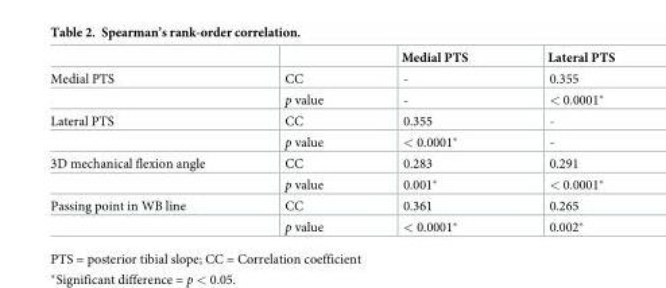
<table><thead><tr><td></td><td></td><td>Medial PTS</td><td>Lateral PTS</td></tr></thead><tbody><tr><td rowspan="2">Medial PTS</td><td>CC</td><td>-</td><td>0.355</td></tr><tr><td>p value</td><td>-</td><td>&lt; 0.0001*</td></tr><tr><td rowspan="2">Lateral PTS</td><td>CC</td><td>0.355</td><td>-</td></tr><tr><td>p value</td><td>&lt; 0.0001*</td><td>-</td></tr><tr><td rowspan="2">3D mechanical flexion angle</td><td>CC</td><td>0.283</td><td>0.291</td></tr><tr><td>p value</td><td>0.001*</td><td>&lt; 0.0001*</td></tr><tr><td rowspan="2">Passing point in WB line</td><td>CC</td><td>0.361</td><td>0.265</td></tr><tr><td>p value</td><td>&lt; 0.0001*</td><td>0.002*</td></tr></tbody></table>